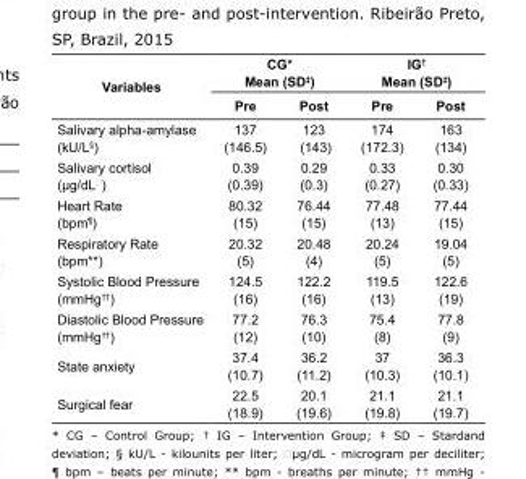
<table><tbody><tr><td rowspan="2">Variables</td><td colspan="2">CG* Mean (SD<sup>‡</sup>)</td><td colspan="2">IG<sup>†</sup> Mean (SD<sup>‡</sup>)</td></tr><tr><td>Pre</td><td>Post</td><td>Pre</td><td>Post</td></tr><tr><td>Salivary alpha-amylase (kU/L<sup>§</sup>)</td><td>137 (146.5)</td><td>123 (143)</td><td>174 (172.3)</td><td>163 (134)</td></tr><tr><td>Salivary cortisol (μg/dL<sup>‖</sup>)</td><td>0.39 (0.39)</td><td>0.29 (0.3)</td><td>0.33 (0.27)</td><td>0.30 (0.33)</td></tr><tr><td>Heart Rate (bpm<sup>¶</sup>)</td><td>80.32 (15)</td><td>76.44 (15)</td><td>77.48 (13)</td><td>77.44 (15)</td></tr><tr><td>Respiratory Rate (bpm**)</td><td>20.32 (5)</td><td>20.48 (4)</td><td>20.24 (5)</td><td>19.04 (5)</td></tr><tr><td>Systolic Blood Pressure (mmHg<sup>††</sup>)</td><td>124.5 (16)</td><td>122.2 (16)</td><td>119.5 (13)</td><td>122.6 (19)</td></tr><tr><td>Diastolic Blood Pressure (mmHg<sup>††</sup>)</td><td>77.2 (12)</td><td>76.3 (10)</td><td>75.4 (8)</td><td>77.8 (9)</td></tr><tr><td>State anxiety</td><td>37.4 (10.7)</td><td>36.2 (11.2)</td><td>37 (10.3)</td><td>36.3 (10.1)</td></tr><tr><td>Surgical fear</td><td>22.5 (18.9)</td><td>20.1 (19.6)</td><td>21.1 (19.8)</td><td>21.1 (19.7)</td></tr></tbody></table>